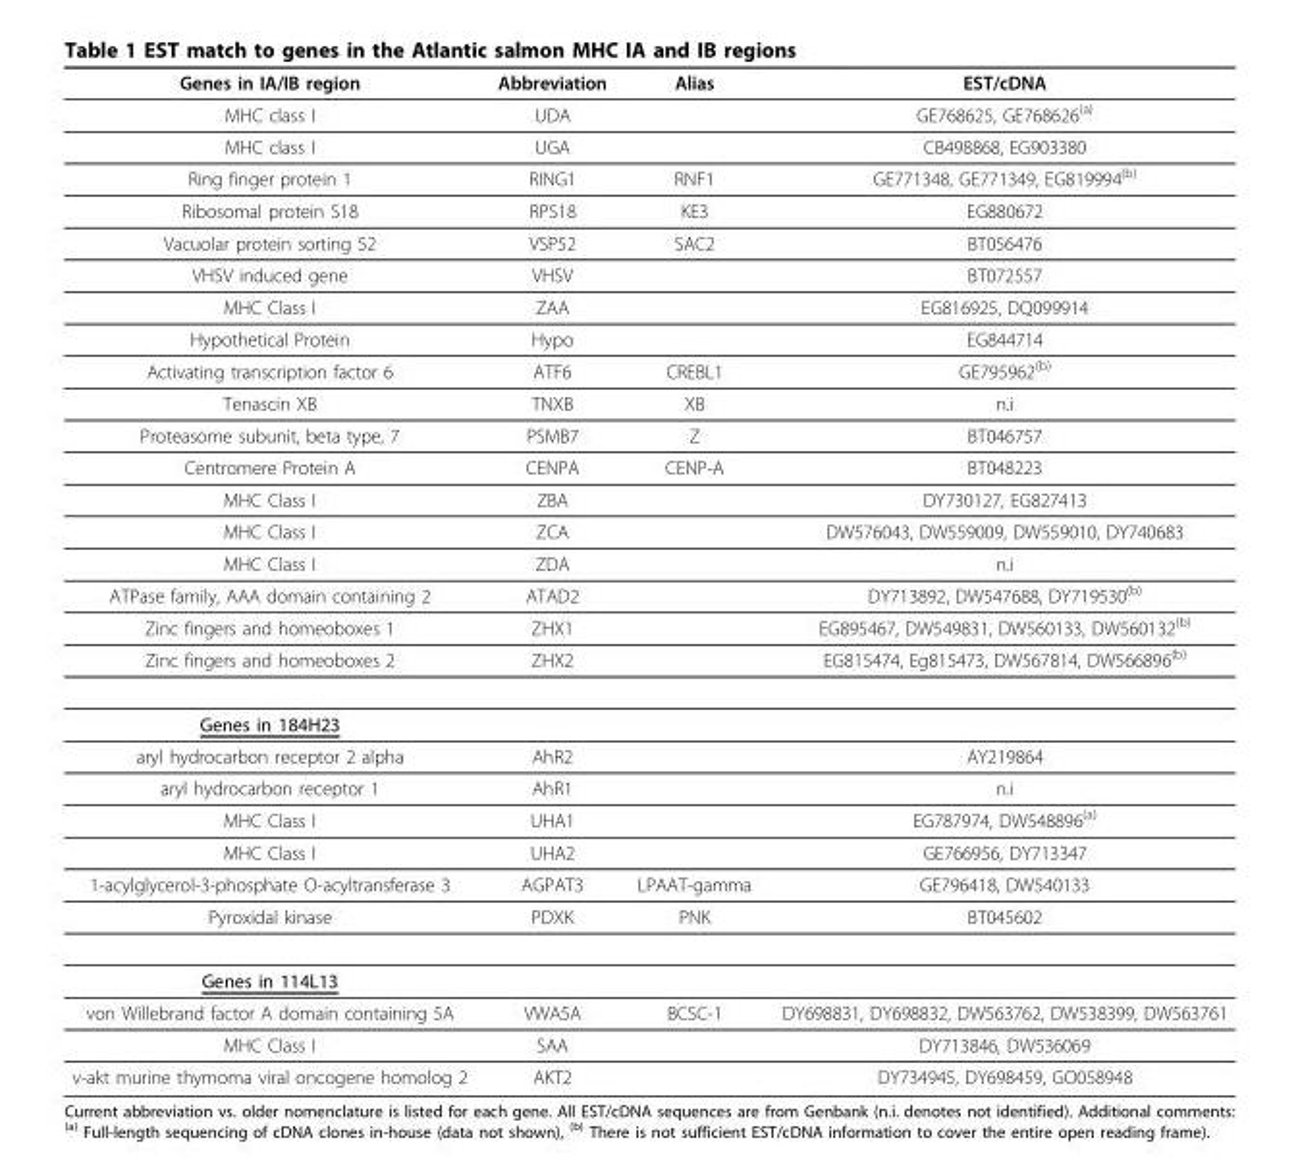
<table><thead><tr><td>Genes in IA/IB region</td><td>Abbreviation</td><td>Alias</td><td>EST/cDNA</td></tr></thead><tbody><tr><td>MHC class I</td><td>UDA</td><td></td><td>GE768625, GE768626(a)</td></tr><tr><td>MHC class I</td><td>UGA</td><td></td><td>CB498868, EG903380</td></tr><tr><td>Ring finger protein 1</td><td>RING1</td><td>RNF1</td><td>GE771348, GE771349, EG819994(b)</td></tr><tr><td>Ribosomal protein S18</td><td>RPS18</td><td>KE3</td><td>EG880672</td></tr><tr><td>Vacuolar protein sorting 52</td><td>VSP52</td><td>SAC2</td><td>BT056476</td></tr><tr><td>VHSV induced gene</td><td>VHSV</td><td></td><td>BT072557</td></tr><tr><td>MHC Class I</td><td>ZAA</td><td></td><td>EG816925, DQ099914</td></tr><tr><td>Hypothetical Protein</td><td>Hypo</td><td></td><td>EG844714</td></tr><tr><td>Activating transcription factor 6</td><td>ATF6</td><td>CREBL1</td><td>GE795962(b)</td></tr><tr><td>Tenascin XB</td><td>TNXB</td><td>XB</td><td>n.i</td></tr><tr><td>Proteasome subunit, beta type, 7</td><td>PSMB7</td><td>Z</td><td>BT046757</td></tr><tr><td>Centromere Protein A</td><td>CENPA</td><td>CENP-A</td><td>BT048223</td></tr><tr><td>MHC Class I</td><td>ZBA</td><td></td><td>DY730127, EG827413</td></tr><tr><td>MHC Class I</td><td>ZCA</td><td></td><td>DW576043, DW559009, DW559010, DY740683</td></tr><tr><td>MHC Class I</td><td>ZDA</td><td></td><td>n.i</td></tr><tr><td>ATPase family, AAA domain containing 2</td><td>ATAD2</td><td></td><td>DY713892, DW547688, DY719530(b)</td></tr><tr><td>Zinc fingers and homeoboxes 1</td><td>ZHX1</td><td></td><td>EG895467, DW549831, DW560133, DW560132(b)</td></tr><tr><td>Zinc fingers and homeoboxes 2</td><td>ZHX2</td><td></td><td>EG815474, Eg815473, DW567814, DW566896(b)</td></tr><tr><td colspan="4">Genes in 184H23</td></tr><tr><td>aryl hydrocarbon receptor 2 alpha</td><td>AhR2</td><td></td><td>AY219864</td></tr><tr><td>aryl hydrocarbon receptor 1</td><td>AhR1</td><td></td><td>n.i</td></tr><tr><td>MHC Class I</td><td>UHA1</td><td></td><td>EG787974, DW548896(a)</td></tr><tr><td>MHC Class I</td><td>UHA2</td><td></td><td>GE766956, DY713347</td></tr><tr><td>1-acylglycerol-3-phosphate O-acyltransferase 3</td><td>AGPAT3</td><td>LPAAT-gamma</td><td>GE796418, DW540133</td></tr><tr><td>Pyroxidal kinase</td><td>PDXK</td><td>PNK</td><td>BT045602</td></tr><tr><td colspan="4">Genes in 114L13</td></tr><tr><td>von Willebrand factor A domain containing 5A</td><td>VWA5A</td><td>BCSC-1</td><td>DY698831, DY698832, DW563762, DW538399, DW563761</td></tr><tr><td>MHC Class I</td><td>SAA</td><td></td><td>DY713846, DW536069</td></tr><tr><td>v-akt murine thymoma viral oncogene homolog 2</td><td>AKT2</td><td></td><td>DY734945, DY698459, GO058948</td></tr></tbody></table>